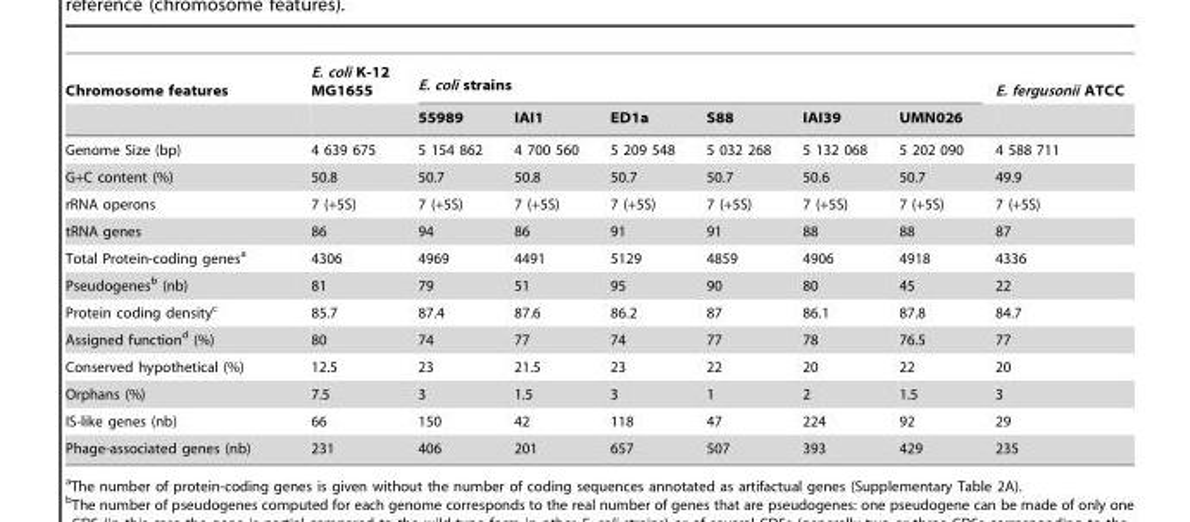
<table><thead><tr><td rowspan="2">Chromosome features</td><td rowspan="2">E. coli K-12 MG1655</td><td colspan="6">E. coli strains</td><td rowspan="2">E. fergusonii ATCC</td></tr><tr><td>55989</td><td>IAI1</td><td>ED1a</td><td>S88</td><td>IAI39</td><td>UMN026</td></tr></thead><tbody><tr><td>Genome Size (bp)</td><td>4 639 675</td><td>5 154 862</td><td>4 700 560</td><td>5 209 548</td><td>5 032 268</td><td>5 132 068</td><td>5 202 090</td><td>4 588 711</td></tr><tr><td>G+C content (%)</td><td>50.8</td><td>50.7</td><td>50.8</td><td>50.7</td><td>50.7</td><td>50.6</td><td>50.7</td><td>49.9</td></tr><tr><td>rRNA operons</td><td>7 (+5S)</td><td>7 (+5S)</td><td>7 (+5S)</td><td>7 (+5S)</td><td>7 (+5S)</td><td>7 (+5S)</td><td>7 (+5S)</td><td>7 (+5S)</td></tr><tr><td>tRNA genes</td><td>86</td><td>94</td><td>86</td><td>91</td><td>91</td><td>88</td><td>88</td><td>87</td></tr><tr><td>Total Protein-coding genes<sup>a</sup></td><td>4306</td><td>4969</td><td>4491</td><td>5129</td><td>4859</td><td>4906</td><td>4918</td><td>4336</td></tr><tr><td>Pseudogenes<sup>b</sup> (nb)</td><td>81</td><td>79</td><td>51</td><td>95</td><td>90</td><td>80</td><td>45</td><td>22</td></tr><tr><td>Protein coding density<sup>c</sup></td><td>85.7</td><td>87.4</td><td>87.6</td><td>86.2</td><td>87</td><td>86.1</td><td>87.8</td><td>84.7</td></tr><tr><td>Assigned function<sup>d</sup> (%)</td><td>80</td><td>74</td><td>77</td><td>74</td><td>77</td><td>78</td><td>76.5</td><td>77</td></tr><tr><td>Conserved hypothetical (%)</td><td>12.5</td><td>23</td><td>21.5</td><td>23</td><td>22</td><td>20</td><td>22</td><td>20</td></tr><tr><td>Orphans (%)</td><td>7.5</td><td>3</td><td>1.5</td><td>3</td><td>1</td><td>2</td><td>1.5</td><td>3</td></tr><tr><td>IS-like genes (nb)</td><td>66</td><td>150</td><td>42</td><td>118</td><td>47</td><td>224</td><td>92</td><td>29</td></tr><tr><td>Phage-associated genes (nb)</td><td>231</td><td>406</td><td>201</td><td>657</td><td>507</td><td>393</td><td>429</td><td>235</td></tr></tbody></table>